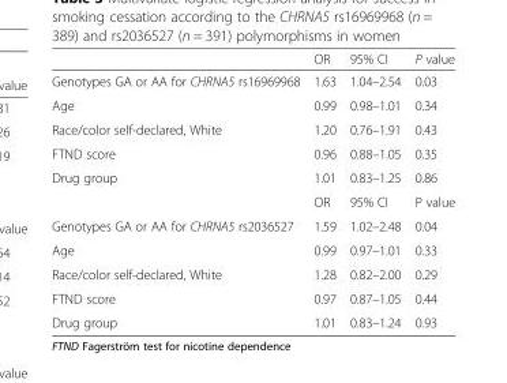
<table><thead><tr><td></td><td>OR</td><td>95% CI</td><td>P value</td></tr></thead><tbody><tr><td>Genotypes GA or AA for CHRNA5 rs16969968</td><td>1.63</td><td>1.04–2.54</td><td>0.03</td></tr><tr><td>Age</td><td>0.99</td><td>0.98–1.01</td><td>0.34</td></tr><tr><td>Race/color self-declared, White</td><td>1.20</td><td>0.76–1.91</td><td>0.43</td></tr><tr><td>FTND score</td><td>0.96</td><td>0.88–1.05</td><td>0.35</td></tr><tr><td rowspan="2">Drug group</td><td>1.01</td><td>0.83–1.25</td><td>0.86</td></tr><tr><td>OR</td><td>95% CI</td><td>P value</td></tr><tr><td>Genotypes GA or AA for CHRNA5 rs2036527</td><td>1.59</td><td>1.02–2.48</td><td>0.04</td></tr><tr><td>Age</td><td>0.99</td><td>0.97–1.01</td><td>0.33</td></tr><tr><td>Race/color self-declared, White</td><td>1.28</td><td>0.82–2.00</td><td>0.29</td></tr><tr><td>FTND score</td><td>0.97</td><td>0.87–1.05</td><td>0.44</td></tr><tr><td>Drug group</td><td>1.01</td><td>0.83–1.24</td><td>0.93</td></tr></tbody></table>